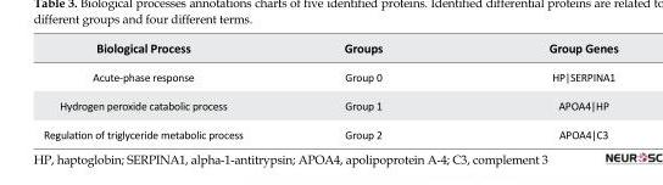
<table><thead><tr><td>Biological Process</td><td>Groups</td><td>Group Genes</td></tr></thead><tbody><tr><td>Acute-phase response</td><td>Group 0</td><td>HP|SERPINA1</td></tr><tr><td>Hydrogen peroxide catabolic process</td><td>Group 1</td><td>APOA4|HP</td></tr><tr><td>Regulation of triglyceride metabolic process</td><td>Group 2</td><td>APOA4|C3</td></tr></tbody></table>